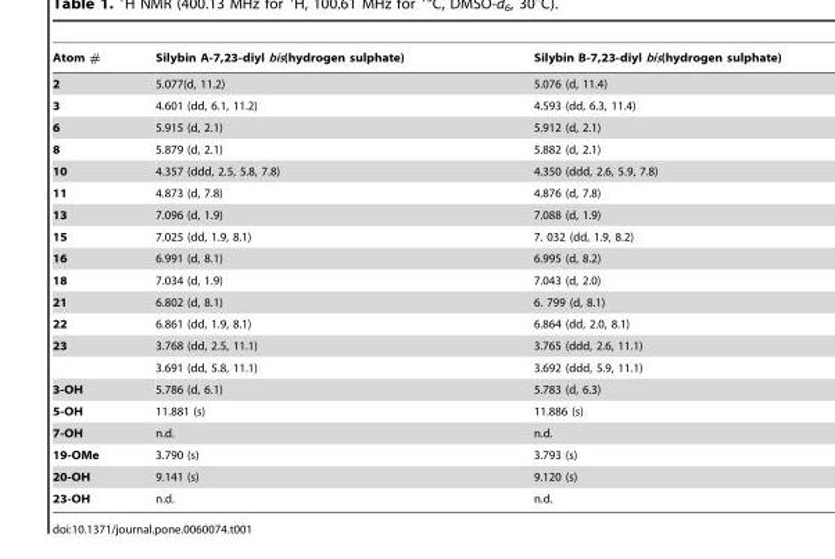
<table><thead><tr><td>Atom #</td><td>Silybin A-7,23-diyl bis(hydrogen sulphate)</td><td>Silybin B-7,23-diyl bis(hydrogen sulphate)</td></tr></thead><tbody><tr><td>2</td><td>5.077(d, 11.2)</td><td>5.076 (d, 11.4)</td></tr><tr><td>3</td><td>4.601 (dd, 6.1, 11.2)</td><td>4.593 (dd, 6.3, 11.4)</td></tr><tr><td>6</td><td>5.915 (d, 2.1)</td><td>5.912 (d, 2.1)</td></tr><tr><td>8</td><td>5.879 (d, 2.1)</td><td>5.882 (d, 2.1)</td></tr><tr><td>10</td><td>4.357 (ddd, 2.5, 5.8, 7.8)</td><td>4.350 (ddd, 2.6, 5.9, 7.8)</td></tr><tr><td>11</td><td>4.873 (d, 7.8)</td><td>4.876 (d, 7.8)</td></tr><tr><td>13</td><td>7.096 (d, 1.9)</td><td>7.088 (d, 1.9)</td></tr><tr><td>15</td><td>7.025 (dd, 1.9, 8.1)</td><td>7. 032 (dd, 1.9, 8.2)</td></tr><tr><td>16</td><td>6.991 (d, 8.1)</td><td>6.995 (d, 8.2)</td></tr><tr><td>18</td><td>7.034 (d, 1.9)</td><td>7.043 (d, 2.0)</td></tr><tr><td>21</td><td>6.802 (d, 8.1)</td><td>6. 799 (d, 8.1)</td></tr><tr><td>22</td><td>6.861 (dd, 1.9, 8.1)</td><td>6.864 (dd, 2.0, 8.1)</td></tr><tr><td rowspan="2">23</td><td>3.768 (dd, 2.5, 11.1)</td><td>3.765 (ddd, 2.6, 11.1)</td></tr><tr><td>3.691 (dd, 5.8, 11.1)</td><td>3.692 (ddd, 5.9, 11.1)</td></tr><tr><td>3-OH</td><td>5.786 (d, 6.1)</td><td>5.783 (d, 6.3)</td></tr><tr><td>5-OH</td><td>11.881 (s)</td><td>11.886 (s)</td></tr><tr><td>7-OH</td><td>n.d.</td><td>n.d.</td></tr><tr><td>19-OMe</td><td>3.790 (s)</td><td>3.793 (s)</td></tr><tr><td>20-OH</td><td>9.141 (s)</td><td>9.120 (s)</td></tr><tr><td>23-OH</td><td>n.d.</td><td>n.d.</td></tr></tbody></table>